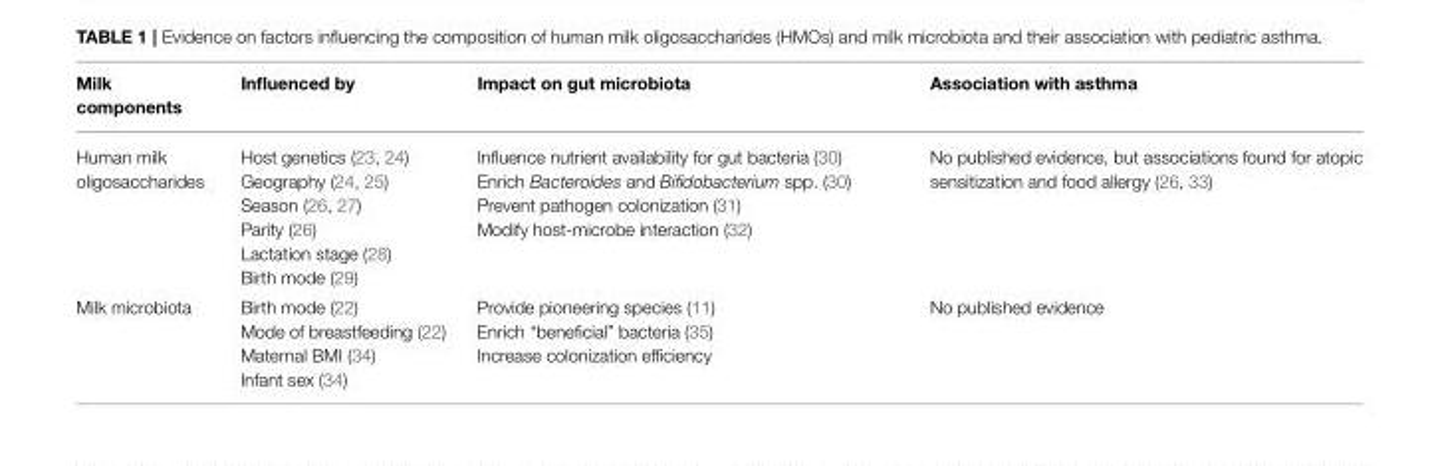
<table><thead><tr><td>Milk components</td><td>Influenced by</td><td>Impact on gut microbiota</td><td>Association with asthma</td></tr></thead><tbody><tr><td>Human milk oligosaccharides</td><td>Host genetics (23, 24) Geography (24, 25) Season (26, 27) Parity (26) Lactation stage (28) Birth mode (29)</td><td>Influence nutrient availability for gut bacteria (30) Enrich Bacteroides and Bifidobacterium spp. (30) Prevent pathogen colonization (31) Modify host-microbe interaction (32)</td><td>No published evidence, but associations found for atopic sensitization and food allergy (26, 33)</td></tr><tr><td>Milk microbiota</td><td>Birth mode (22) Mode of breastfeeding (22) Maternal BMI (34) Infant sex (34)</td><td>Provide pioneering species (11) Enrich “beneficial” bacteria (35) Increase colonization efficiency</td><td>No published evidence</td></tr></tbody></table>